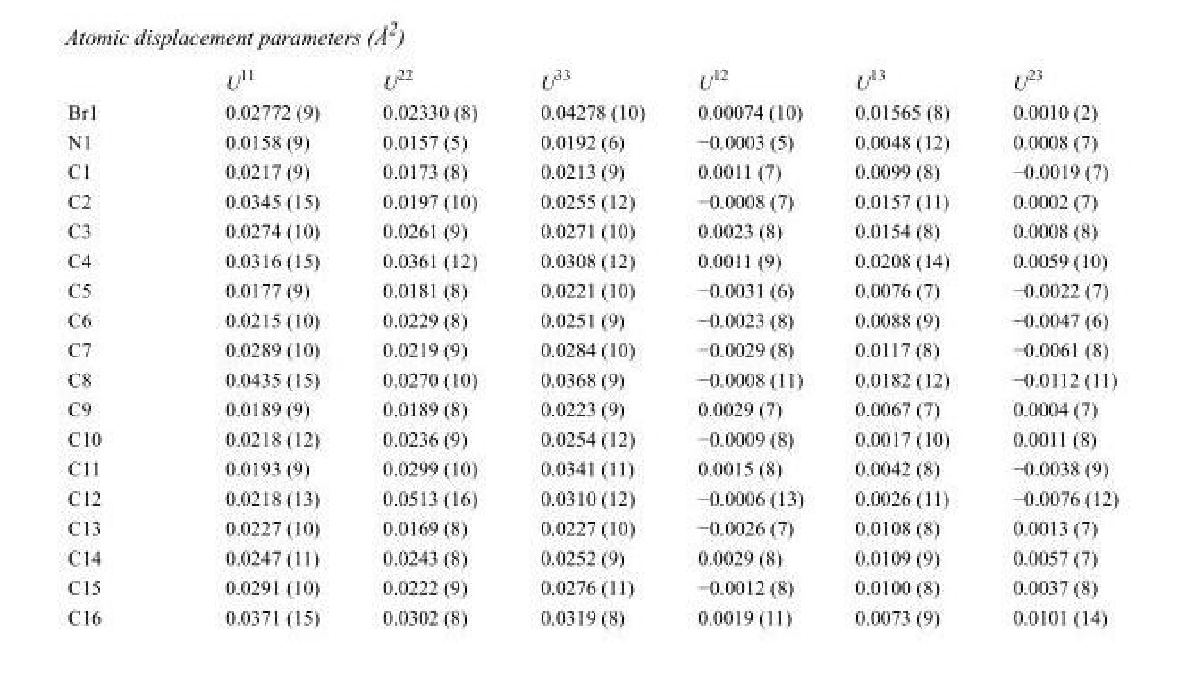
<table><thead><tr><td></td><td>U<sup>11</sup></td><td>U<sup>22</sup></td><td>U<sup>33</sup></td><td>U<sup>12</sup></td><td>U<sup>13</sup></td><td>U<sup>23</sup></td></tr></thead><tbody><tr><td>Br1</td><td>0.02772 (9)</td><td>0.02330 (8)</td><td>0.04278 (10)</td><td>0.00074 (10)</td><td>0.01565 (8)</td><td>0.0010 (2)</td></tr><tr><td>N1</td><td>0.0158 (9)</td><td>0.0157 (5)</td><td>0.0192 (6)</td><td>−0.0003 (5)</td><td>0.0048 (12)</td><td>0.0008 (7)</td></tr><tr><td>C1</td><td>0.0217 (9)</td><td>0.0173 (8)</td><td>0.0213 (9)</td><td>0.0011 (7)</td><td>0.0099 (8)</td><td>−0.0019 (7)</td></tr><tr><td>C2</td><td>0.0345 (15)</td><td>0.0197 (10)</td><td>0.0255 (12)</td><td>−0.0008 (7)</td><td>0.0157 (11)</td><td>0.0002 (7)</td></tr><tr><td>C3</td><td>0.0274 (10)</td><td>0.0261 (9)</td><td>0.0271 (10)</td><td>0.0023 (8)</td><td>0.0154 (8)</td><td>0.0008 (8)</td></tr><tr><td>C4</td><td>0.0316 (15)</td><td>0.0361 (12)</td><td>0.0308 (12)</td><td>0.0011 (9)</td><td>0.0208 (14)</td><td>0.0059 (10)</td></tr><tr><td>C5</td><td>0.0177 (9)</td><td>0.0181 (8)</td><td>0.0221 (10)</td><td>−0.0031 (6)</td><td>0.0076 (7)</td><td>−0.0022 (7)</td></tr><tr><td>C6</td><td>0.0215 (10)</td><td>0.0229 (8)</td><td>0.0251 (9)</td><td>−0.0023 (8)</td><td>0.0088 (9)</td><td>−0.0047 (6)</td></tr><tr><td>C7</td><td>0.0289 (10)</td><td>0.0219 (9)</td><td>0.0284 (10)</td><td>−0.0029 (8)</td><td>0.0117 (8)</td><td>−0.0061 (8)</td></tr><tr><td>C8</td><td>0.0435 (15)</td><td>0.0270 (10)</td><td>0.0368 (9)</td><td>−0.0008 (11)</td><td>0.0182 (12)</td><td>−0.0112 (11)</td></tr><tr><td>C9</td><td>0.0189 (9)</td><td>0.0189 (8)</td><td>0.0223 (9)</td><td>0.0029 (7)</td><td>0.0067 (7)</td><td>0.0004 (7)</td></tr><tr><td>C10</td><td>0.0218 (12)</td><td>0.0236 (9)</td><td>0.0254 (12)</td><td>−0.0009 (8)</td><td>0.0017 (10)</td><td>0.0011 (8)</td></tr><tr><td>C11</td><td>0.0193 (9)</td><td>0.0299 (10)</td><td>0.0341 (11)</td><td>0.0015 (8)</td><td>0.0042 (8)</td><td>−0.0038 (9)</td></tr><tr><td>C12</td><td>0.0218 (13)</td><td>0.0513 (16)</td><td>0.0310 (12)</td><td>−0.0006 (13)</td><td>0.0026 (11)</td><td>−0.0076 (12)</td></tr><tr><td>C13</td><td>0.0227 (10)</td><td>0.0169 (8)</td><td>0.0227 (10)</td><td>−0.0026 (7)</td><td>0.0108 (8)</td><td>0.0013 (7)</td></tr><tr><td>C14</td><td>0.0247 (11)</td><td>0.0243 (8)</td><td>0.0252 (9)</td><td>0.0029 (8)</td><td>0.0109 (9)</td><td>0.0057 (7)</td></tr><tr><td>C15</td><td>0.0291 (10)</td><td>0.0222 (9)</td><td>0.0276 (11)</td><td>−0.0012 (8)</td><td>0.0100 (8)</td><td>0.0037 (8)</td></tr><tr><td>C16</td><td>0.0371 (15)</td><td>0.0302 (8)</td><td>0.0319 (8)</td><td>0.0019 (11)</td><td>0.0073 (9)</td><td>0.0101 (14)</td></tr></tbody></table>